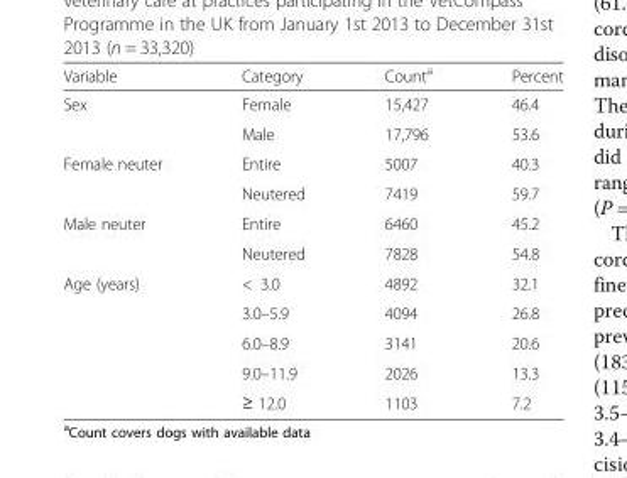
<table><thead><tr><td>Variable</td><td>Category</td><td>Count<sup>a</sup></td><td>Percent</td></tr></thead><tbody><tr><td rowspan="2">Sex</td><td>Female</td><td>15,427</td><td>46.4</td></tr><tr><td>Male</td><td>17,796</td><td>53.6</td></tr><tr><td rowspan="2">Female neuter</td><td>Entire</td><td>5007</td><td>40.3</td></tr><tr><td>Neutered</td><td>7419</td><td>59.7</td></tr><tr><td rowspan="2">Male neuter</td><td>Entire</td><td>6460</td><td>45.2</td></tr><tr><td>Neutered</td><td>7828</td><td>54.8</td></tr><tr><td rowspan="5">Age (years)</td><td>&lt; 3.0</td><td>4892</td><td>32.1</td></tr><tr><td>3.0–5.9</td><td>4094</td><td>26.8</td></tr><tr><td>6.0–8.9</td><td>3141</td><td>20.6</td></tr><tr><td>9.0–11.9</td><td>2026</td><td>13.3</td></tr><tr><td>≥ 12.0</td><td>1103</td><td>7.2</td></tr></tbody></table>